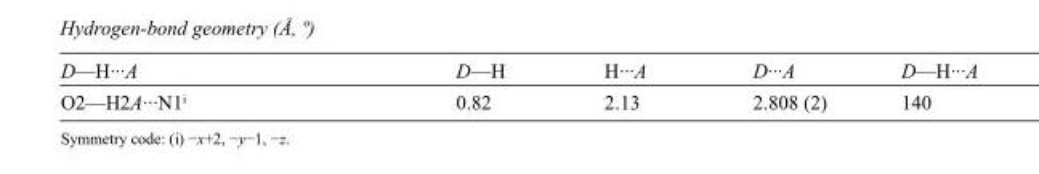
<table><tbody><tr><td>D—H···A</td><td>D—H</td><td>H···A</td><td>D···A</td><td>D—H···A</td></tr><tr><td>O2—H2A···N1<sup>i</sup></td><td>0.82</td><td>2.13</td><td>2.808 (2)</td><td>140</td></tr></tbody></table>